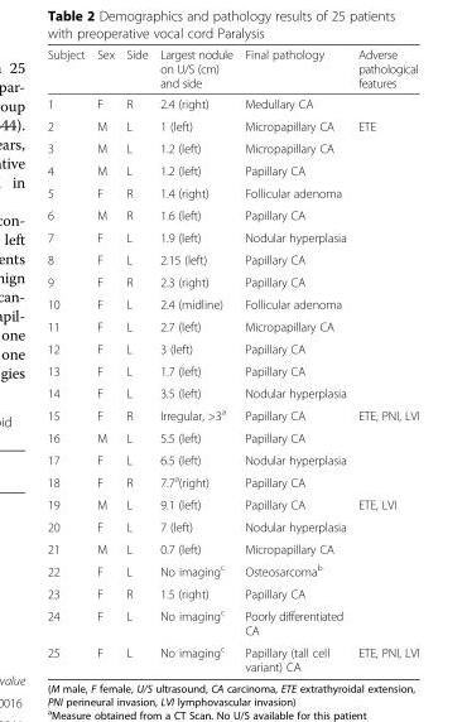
<table><thead><tr><td>Subject</td><td>Sex</td><td>Side</td><td>Largest nodule on U/S (cm) and side</td><td>Final pathology</td><td>Adverse pathological features</td></tr></thead><tbody><tr><td>1</td><td>F</td><td>R</td><td>2.4 (right)</td><td>Medullary CA</td><td></td></tr><tr><td>2</td><td>M</td><td>L</td><td>1 (left)</td><td>Micropapillary CA</td><td>ETE</td></tr><tr><td>3</td><td>M</td><td>L</td><td>1.2 (left)</td><td>Micropapillary CA</td><td></td></tr><tr><td>4</td><td>M</td><td>L</td><td>1.2 (left)</td><td>Papillary CA</td><td></td></tr><tr><td>5</td><td>F</td><td>R</td><td>1.4 (right)</td><td>Follicular adenoma</td><td></td></tr><tr><td>6</td><td>M</td><td>R</td><td>1.6 (left)</td><td>Papillary CA</td><td></td></tr><tr><td>7</td><td>F</td><td>L</td><td>1.9 (left)</td><td>Nodular hyperplasia</td><td></td></tr><tr><td>8</td><td>F</td><td>L</td><td>2.15 (left)</td><td>Papillary CA</td><td></td></tr><tr><td>9</td><td>F</td><td>R</td><td>2.3 (right)</td><td>Papillary CA</td><td></td></tr><tr><td>10</td><td>F</td><td>L</td><td>2.4 (midline)</td><td>Follicular adenoma</td><td></td></tr><tr><td>11</td><td>F</td><td>L</td><td>2.7 (left)</td><td>Micropapillary CA</td><td></td></tr><tr><td>12</td><td>F</td><td>L</td><td>3 (left)</td><td>Papillary CA</td><td></td></tr><tr><td>13</td><td>F</td><td>L</td><td>1.7 (left)</td><td>Papillary CA</td><td></td></tr><tr><td>14</td><td>F</td><td>L</td><td>3.5 (left)</td><td>Nodular hyperplasia</td><td></td></tr><tr><td>15</td><td>F</td><td>R</td><td>Irregular, &gt;3<sup>a</sup></td><td>Papillary CA</td><td>ETE, PNI, LVI</td></tr><tr><td>16</td><td>M</td><td>L</td><td>5.5 (left)</td><td>Papillary CA</td><td></td></tr><tr><td>17</td><td>F</td><td>L</td><td>6.5 (left)</td><td>Nodular hyperplasia</td><td></td></tr><tr><td>18</td><td>F</td><td>R</td><td>7.7<sup>a</sup>(right)</td><td>Papillary CA</td><td></td></tr><tr><td>19</td><td>M</td><td>L</td><td>9.1 (left)</td><td>Papillary CA</td><td>ETE, LVI</td></tr><tr><td>20</td><td>F</td><td>L</td><td>7 (left)</td><td>Nodular hyperplasia</td><td></td></tr><tr><td>21</td><td>M</td><td>L</td><td>0.7 (left)</td><td>Micropapillary CA</td><td></td></tr><tr><td>22</td><td>F</td><td>L</td><td>No imaging<sup>c</sup></td><td>Osteosarcoma<sup>b</sup></td><td></td></tr><tr><td>23</td><td>F</td><td>R</td><td>1.5 (right)</td><td>Papillary CA</td><td></td></tr><tr><td>24</td><td>F</td><td>L</td><td>No imaging<sup>c</sup></td><td>Poorly differentiated CA</td><td></td></tr><tr><td>25</td><td>F</td><td>L</td><td>No imaging<sup>c</sup></td><td>Papillary (tall cell variant) CA</td><td>ETE, PNI, LVI</td></tr></tbody></table>